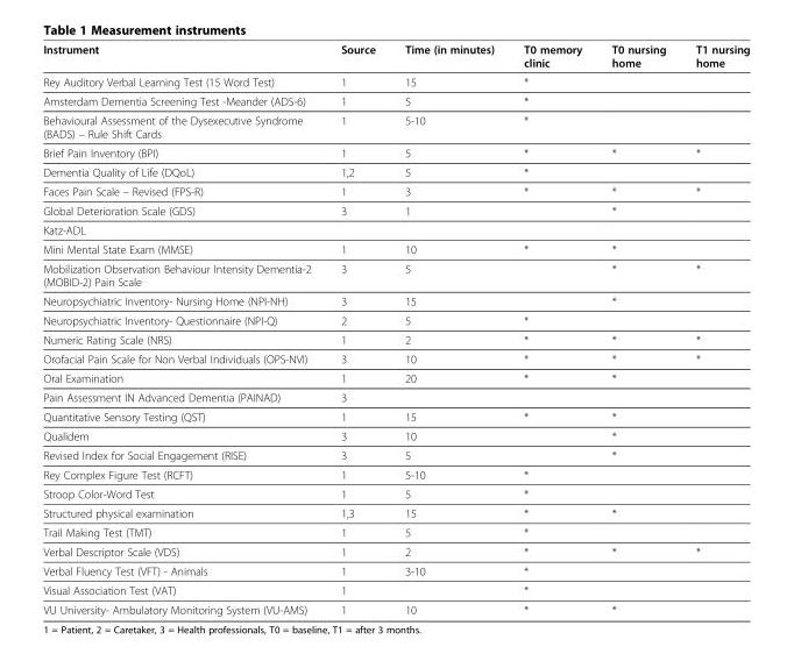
<table><thead><tr><td>Instrument</td><td>Source</td><td>Time (in minutes)</td><td>T0 memory clinic</td><td>T0 nursing home</td><td>T1 nursing home</td></tr></thead><tbody><tr><td>Rey Auditory Verbal Learning Test (15 Word Test)</td><td>1</td><td>15</td><td>*</td><td></td><td></td></tr><tr><td>Amsterdam Dementia Screening Test -Meander (ADS-6)</td><td>1</td><td>5</td><td>*</td><td></td><td></td></tr><tr><td>Behavioural Assessment of the Dysexecutive Syndrome (BADS) – Rule Shift Cards</td><td>1</td><td>5-10</td><td>*</td><td></td><td></td></tr><tr><td>Brief Pain Inventory (BPI)</td><td>1</td><td>5</td><td>*</td><td>*</td><td>*</td></tr><tr><td>Dementia Quality of Life (DQoL)</td><td>1,2</td><td>5</td><td>*</td><td></td><td></td></tr><tr><td>Faces Pain Scale – Revised (FPS-R)</td><td>1</td><td>3</td><td>*</td><td>*</td><td>*</td></tr><tr><td>Global Deterioration Scale (GDS)</td><td>3</td><td>1</td><td></td><td>*</td><td></td></tr><tr><td colspan="6">Katz-ADL</td></tr><tr><td>Mini Mental State Exam (MMSE)</td><td>1</td><td>10</td><td>*</td><td>*</td><td></td></tr><tr><td>Mobilization Observation Behaviour Intensity Dementia-2 (MOBID-2) Pain Scale</td><td>3</td><td>5</td><td></td><td>*</td><td>*</td></tr><tr><td>Neuropsychiatric Inventory- Nursing Home (NPI-NH)</td><td>3</td><td>15</td><td></td><td>*</td><td></td></tr><tr><td>Neuropsychiatric Inventory- Questionnaire (NPI-Q)</td><td>2</td><td>5</td><td>*</td><td></td><td></td></tr><tr><td>Numeric Rating Scale (NRS)</td><td>1</td><td>2</td><td>*</td><td>*</td><td>*</td></tr><tr><td>Orofacial Pain Scale for Non Verbal Individuals (OPS-NVI)</td><td>3</td><td>10</td><td>*</td><td>*</td><td>*</td></tr><tr><td>Oral Examination</td><td>1</td><td>20</td><td>*</td><td>*</td><td></td></tr><tr><td>Pain Assessment IN Advanced Dementia (PAINAD)</td><td>3</td><td></td><td></td><td></td><td></td></tr><tr><td>Quantitative Sensory Testing (QST)</td><td>1</td><td>15</td><td>*</td><td>*</td><td></td></tr><tr><td>Qualidem</td><td>3</td><td>10</td><td></td><td>*</td><td></td></tr><tr><td>Revised Index for Social Engagement (RISE)</td><td>3</td><td>5</td><td></td><td>*</td><td></td></tr><tr><td>Rey Complex Figure Test (RCFT)</td><td>1</td><td>5-10</td><td>*</td><td></td><td></td></tr><tr><td>Stroop Color-Word Test</td><td>1</td><td>5</td><td>*</td><td></td><td></td></tr><tr><td>Structured physical examination</td><td>1,3</td><td>15</td><td>*</td><td>*</td><td></td></tr><tr><td>Trail Making Test (TMT)</td><td>1</td><td>5</td><td>*</td><td></td><td></td></tr><tr><td>Verbal Descriptor Scale (VDS)</td><td>1</td><td>2</td><td>*</td><td>*</td><td>*</td></tr><tr><td>Verbal Fluency Test (VFT) - Animals</td><td>1</td><td>3-10</td><td>*</td><td></td><td></td></tr><tr><td>Visual Association Test (VAT)</td><td>1</td><td></td><td>*</td><td></td><td></td></tr><tr><td>VU University- Ambulatory Monitoring System (VU-AMS)</td><td>1</td><td>10</td><td>*</td><td>*</td><td></td></tr></tbody></table>